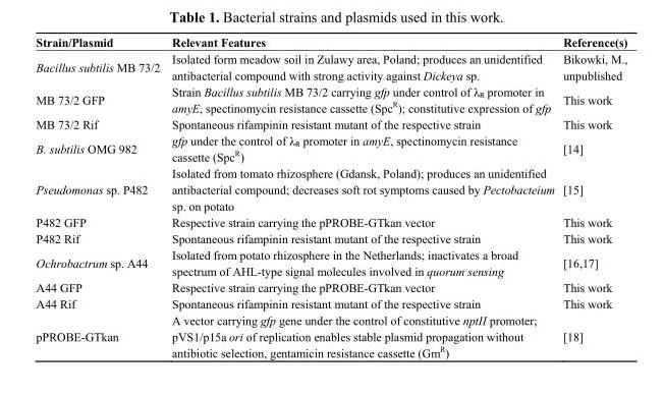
<table><thead><tr><td>Strain/Plasmid</td><td>Relevant Features</td><td>Reference(s)</td></tr></thead><tbody><tr><td>Bacillus subtilis MB 73/2</td><td>Isolated form meadow soil in Zulawy area, Poland; produces an unidentified antibacterial compound with strong activity against Dickeya sp.</td><td>Bikowki, M., unpublished</td></tr><tr><td>MB 73/2 GFP</td><td>Strain Bacillus subtilis MB 73/2 carrying gfp under control of λ<sub>R</sub> promoter in amyE, spectinomycin resistance cassette (Spc<sup>R</sup>); constitutive expression of gfp</td><td>This work</td></tr><tr><td>MB 73/2 Rif</td><td>Spontaneous rifampinin resistant mutant of the respective strain</td><td>This work</td></tr><tr><td>B. subtilis OMG 982</td><td>gfp under the control of λ<sub>R</sub> promoter in amyE, spectinomycin resistance cassette (Spc<sup>R</sup>)</td><td>[14]</td></tr><tr><td>Pseudomonas sp. P482</td><td>Isolated from tomato rhizosphere (Gdansk, Poland); produces an unidentified antibacterial compound; decreases soft rot symptoms caused by Pectobacteium sp. on potato</td><td>[15]</td></tr><tr><td>P482 GFP</td><td>Respective strain carrying the pPROBE-GTkan vector</td><td>This work</td></tr><tr><td>P482 Rif</td><td>Spontaneous rifampinin resistant mutant of the respective strain</td><td>This work</td></tr><tr><td>Ochrobactrum sp. A44</td><td>Isolated from potato rhizosphere in the Netherlands; inactivates a broad spectrum of AHL-type signal molecules involved in quorum sensing</td><td>[16,17]</td></tr><tr><td>A44 GFP</td><td>Respective strain carrying the pPROBE-GTkan vector</td><td>This work</td></tr><tr><td>A44 Rif</td><td>Spontaneous rifampinin resistant mutant of the respective strain</td><td>This work</td></tr><tr><td>pPROBE-GTkan</td><td>A vector carrying gfp gene under the control of constitutive nptII promoter; pVS1/p15a ori of replication enables stable plasmid propagation without antibiotic selection, gentamicin resistance cassette (Gm<sup>R</sup>)</td><td>[18]</td></tr></tbody></table>